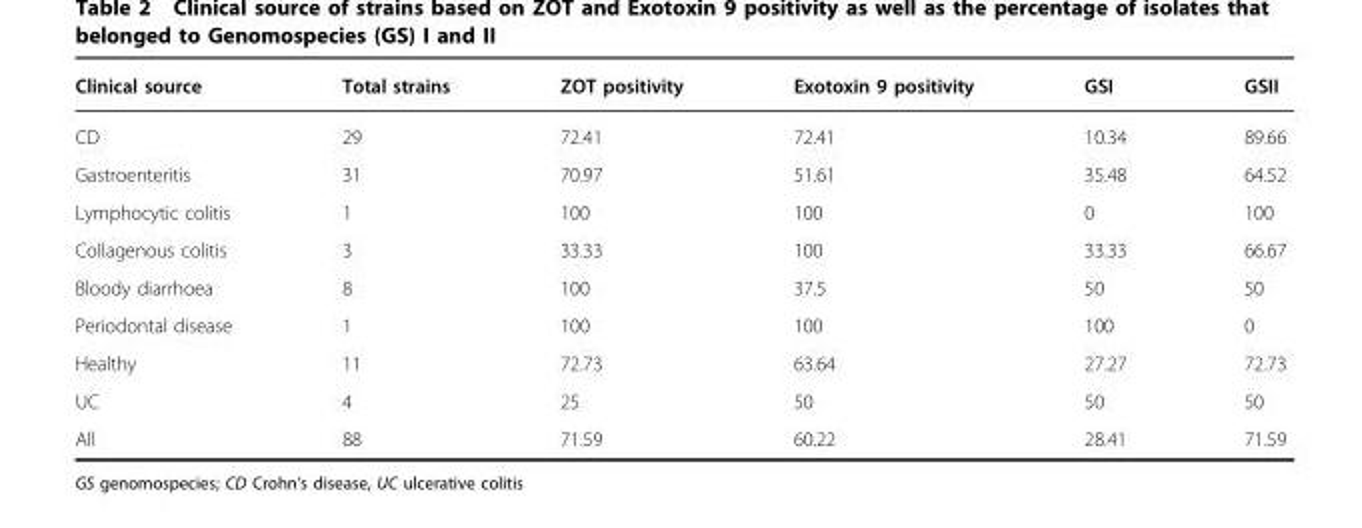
<table><thead><tr><td>Clinical source</td><td>Total strains</td><td>ZOT positivity</td><td>Exotoxin 9 positivity</td><td>GSI</td><td>GSII</td></tr></thead><tbody><tr><td>CD</td><td>29</td><td>72.41</td><td>72.41</td><td>10.34</td><td>89.66</td></tr><tr><td>Gastroenteritis</td><td>31</td><td>70.97</td><td>51.61</td><td>35.48</td><td>64.52</td></tr><tr><td>Lymphocytic colitis</td><td>1</td><td>100</td><td>100</td><td>0</td><td>100</td></tr><tr><td>Collagenous colitis</td><td>3</td><td>33.33</td><td>100</td><td>33.33</td><td>66.67</td></tr><tr><td>Bloody diarrhoea</td><td>8</td><td>100</td><td>37.5</td><td>50</td><td>50</td></tr><tr><td>Periodontal disease</td><td>1</td><td>100</td><td>100</td><td>100</td><td>0</td></tr><tr><td>Healthy</td><td>11</td><td>72.73</td><td>63.64</td><td>27.27</td><td>72.73</td></tr><tr><td>UC</td><td>4</td><td>25</td><td>50</td><td>50</td><td>50</td></tr><tr><td>All</td><td>88</td><td>71.59</td><td>60.22</td><td>28.41</td><td>71.59</td></tr></tbody></table>